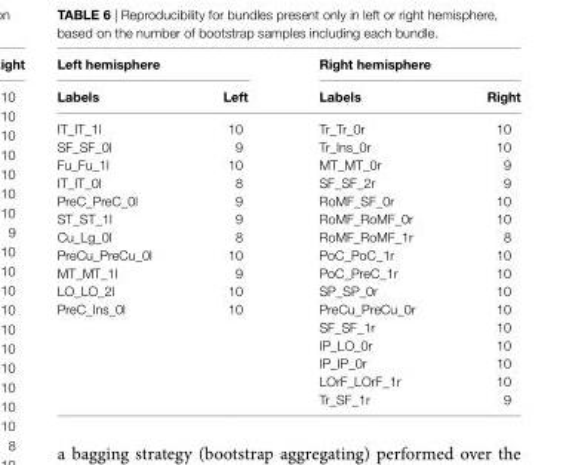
<table><thead><tr><td colspan="2">left hemisphere</td><td colspan="2">right hemisphere</td></tr><tr><td>labels</td><td>left</td><td>labels</td><td>right</td></tr></thead><tbody><tr><td>IT_IT_1l</td><td>10</td><td>Tr_Tr_0r</td><td>10</td></tr><tr><td>SF_SF_0l</td><td>9</td><td>Tr_Ins_0r</td><td>10</td></tr><tr><td>Fu_Fu_1l</td><td>10</td><td>MT_MT_0r</td><td>9</td></tr><tr><td>IT_IT_0l</td><td>8</td><td>SF_SF_2r</td><td>9</td></tr><tr><td>PreC_PreC_0l</td><td>9</td><td>RoMF_SF_0r</td><td>10</td></tr><tr><td>ST_ST_1l</td><td>9</td><td>RoMF_RoMF_0r</td><td>10</td></tr><tr><td>Cu_Lg_0l</td><td>8</td><td>RoMF_RoMF_1r</td><td>8</td></tr><tr><td>PreCu_PreCu_0l</td><td>10</td><td>PoC_PoC_1r</td><td>10</td></tr><tr><td>MT_MT_1l</td><td>9</td><td>PoC_PreC_1r</td><td>10</td></tr><tr><td>LO_LO_2l</td><td>10</td><td>SP_SP_0r</td><td>10</td></tr><tr><td rowspan="6">PreC_Ins_0l</td><td>10</td><td>PreCu_PreCu_0r</td><td>10</td></tr><tr><td></td><td>SF_SF_1r</td><td>10</td></tr><tr><td></td><td>IP_LO_0r</td><td>10</td></tr><tr><td></td><td>IP_IP_0r</td><td>10</td></tr><tr><td></td><td>LOrF_LOrF_1r</td><td>10</td></tr><tr><td></td><td>Tr_SF_1r</td><td>9</td></tr></tbody></table>